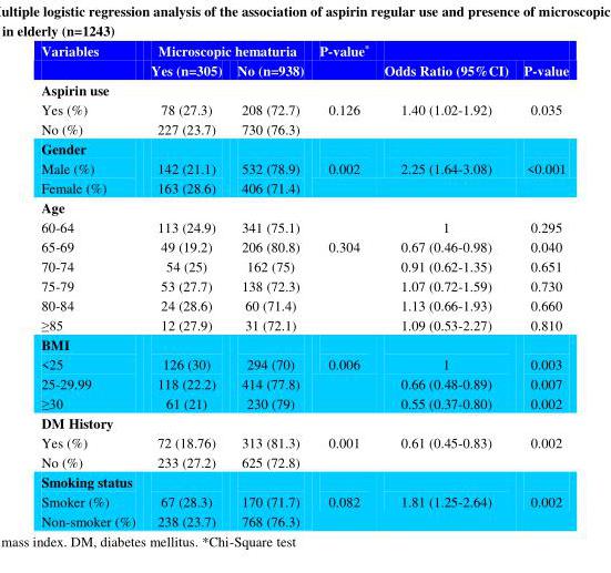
<table><thead><tr><td rowspan="2">Variables</td><td colspan="2">Microscopic hematuria</td><td rowspan="2">P-value*</td><td rowspan="2">Odds Ratio (95%CI)</td><td rowspan="2">P-value</td></tr><tr><td>Yes (n=305)</td><td>No (n=938)</td></tr></thead><tbody><tr><td colspan="6">Aspirin use</td></tr><tr><td>Yes (%) No (%)</td><td>78 (27.3) 227 (23.7)</td><td>208 (72.7) 730 (76.3)</td><td>0.126</td><td>1.40 (1.02-1.92)</td><td>0.035</td></tr><tr><td colspan="6">Gender</td></tr><tr><td>Male (%) Female (%)</td><td>142 (21.1) 163 (28.6)</td><td>532 (78.9) 406 (71.4)</td><td>0.002</td><td>2.25 (1.64-3.08)</td><td>&lt;0.001</td></tr><tr><td colspan="6">Age</td></tr><tr><td>60-64 65-69 70-74 75-79 80-84 ≥85</td><td>113 (24.9) 49 (19.2) 54 (25) 53 (27.7) 24 (28.6) 12 (27.9)</td><td>341 (75.1) 206 (80.8) 162 (75) 138 (72.3) 60 (71.4) 31 (72.1)</td><td>0.304</td><td>1 0.67 (0.46-0.98) 0.91 (0.62-1.35) 1.07 (0.72-1.59) 1.13 (0.66-1.93) 1.09 (0.53-2.27)</td><td>0.295 0.040 0.651 0.730 0.660 0.810</td></tr><tr><td colspan="6">BMI</td></tr><tr><td>&lt;25 25-29.99 ≥30</td><td>126 (30) 118 (22.2) 61 (21)</td><td>294 (70) 414 (77.8) 230 (79)</td><td>0.006</td><td>1 0.66 (0.48-0.89) 0.55 (0.37-0.80)</td><td>0.003 0.007 0.002</td></tr><tr><td colspan="6">DM History</td></tr><tr><td>Yes (%) No (%)</td><td>72 (18.76) 233 (27.2)</td><td>313 (81.3) 625 (72.8)</td><td>0.001</td><td>0.61 (0.45-0.83)</td><td>0.002</td></tr><tr><td colspan="6">Smoking status</td></tr><tr><td>Smoker (%) Non-smoker (%)</td><td>67 (28.3) 238 (23.7)</td><td>170 (71.7) 768 (76.3)</td><td>0.082</td><td>1.81 (1.25-2.64)</td><td>0.002</td></tr></tbody></table>